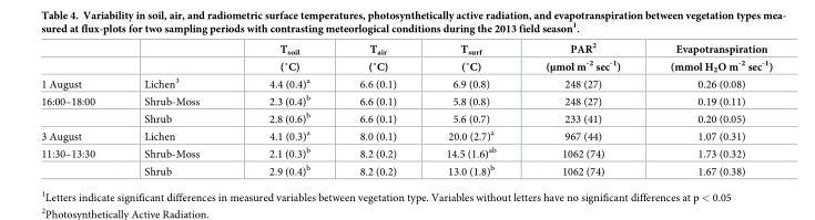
<table><thead><tr><td rowspan="2"></td><td rowspan="2"></td><td rowspan="2">Tsoil (˚C)</td><td rowspan="2">Tair (˚C)</td><td rowspan="2">Tsurf (˚C)</td><td rowspan="2">PAR<sup>2</sup> (μmol m<sup>-2</sup> sec<sup>-1</sup>)</td><td rowspan="2">Evapotranspiration (mmol H<sub>2</sub>O m<sup>-2</sup> sec<sup>-1</sup>)</td></tr><tr></tr></thead><tbody><tr><td>1 August</td><td>Lichen<sup>3</sup></td><td>4.4 (0.4)<sup>a</sup></td><td>6.6 (0.1)</td><td>6.9 (0.8)</td><td>248 (27)</td><td>0.26 (0.08)</td></tr><tr><td rowspan="2">16:00–18:00</td><td>Shrub-Moss</td><td>2.3 (0.4)<sup>b</sup></td><td>6.6 (0.1)</td><td>5.8 (0.8)</td><td>248 (27)</td><td>0.19 (0.11)</td></tr><tr><td>Shrub</td><td>2.8 (0.6)<sup>b</sup></td><td>6.6 (0.1)</td><td>5.6 (0.7)</td><td>233 (41)</td><td>0.20 (0.05)</td></tr><tr><td>3 August</td><td>Lichen</td><td>4.1 (0.3)<sup>a</sup></td><td>8.0 (0.1)</td><td>20.0 (2.7)<sup>a</sup></td><td>967 (44)</td><td>1.07 (0.31)</td></tr><tr><td rowspan="2">11:30–13:30</td><td>Shrub-Moss</td><td>2.1 (0.3)<sup>b</sup></td><td>8.2 (0.2)</td><td>14.5 (1.6)<sup>ab</sup></td><td>1062 (74)</td><td>1.73 (0.32)</td></tr><tr><td>Shrub</td><td>2.9 (0.4)<sup>b</sup></td><td>8.2 (0.2)</td><td>13.0 (1.8)<sup>b</sup></td><td>1062 (74)</td><td>1.67 (0.38)</td></tr></tbody></table>